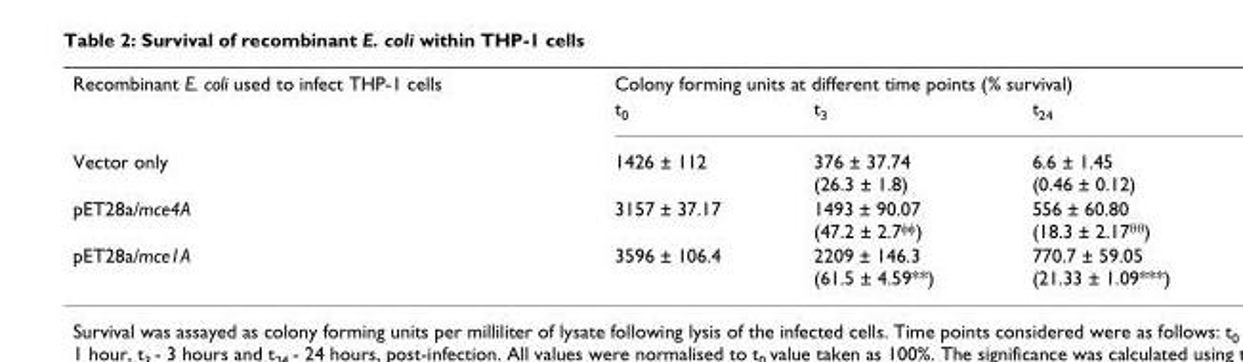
<table><tbody><tr><td rowspan="2">Recombinant E. coli used to infect THP-1 cells</td><td colspan="3">Colony forming units at different time points (% survival)</td></tr><tr><td>t<sub>0</sub></td><td>t<sub>3</sub></td><td>t<sub>24</sub></td></tr><tr><td>Vector only</td><td>1426 ± 112</td><td>376 ± 37.74 (26.3 ± 1.8)</td><td>6.6 ± 1.45 (0.46 ± 0.12)</td></tr><tr><td>pET28a/mce4A</td><td>3157 ± 37.17</td><td>1493 ± 90.07 (47.2 ± 2.7<sup>φφ</sup>)</td><td>556 ± 60.80 (18.3 ± 2.17<sup>θθ</sup>)</td></tr><tr><td>pET28a/mce1A</td><td>3596 ± 106.4</td><td>2209 ± 146.3 (61.5 ± 4.59**)</td><td>770.7 ± 59.05 (21.33 ± 1.09***)</td></tr></tbody></table>